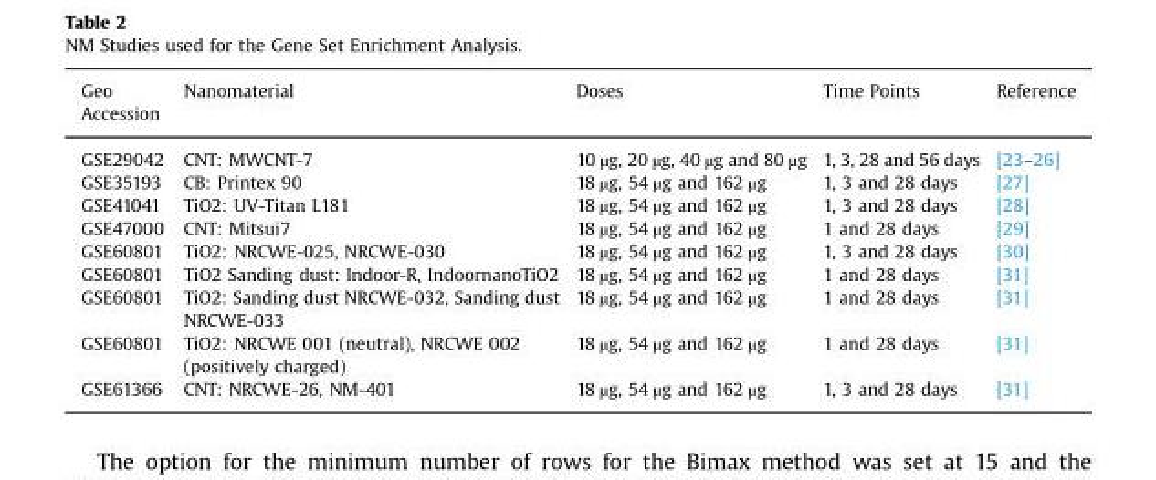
<table><thead><tr><td>Geo Accession</td><td>Nanomaterial</td><td>Doses</td><td>Time Points</td><td>Reference</td></tr></thead><tbody><tr><td>GSE29042</td><td>CNT: MWCNT-7</td><td>10 µg, 20 µg, 40 µg and 80 µg</td><td>1, 3, 28 and 56 days</td><td>[23–26]</td></tr><tr><td>GSE35193</td><td>CB: Printex 90</td><td>18 µg, 54 µg and 162 µg</td><td>1, 3 and 28 days</td><td>[27]</td></tr><tr><td>GSE41041</td><td>TiO2: UV-Titan L181</td><td>18 µg, 54 µg and 162 µg</td><td>1, 3 and 28 days</td><td>[28]</td></tr><tr><td>GSE47000</td><td>CNT: Mitsui7</td><td>18 µg, 54 µg and 162 µg</td><td>1 and 28 days</td><td>[29]</td></tr><tr><td>GSE60801</td><td>TiO2: NRCWE-025, NRCWE-030</td><td>18 µg, 54 µg and 162 µg</td><td>1, 3 and 28 days</td><td>[30]</td></tr><tr><td>GSE60801</td><td>TiO2 Sanding dust: Indoor-R, IndoornanoTiO2</td><td>18 µg, 54 µg and 162 µg</td><td>1 and 28 days</td><td>[31]</td></tr><tr><td>GSE60801</td><td>TiO2: Sanding dust NRCWE-032, Sanding dust NRCWE-033</td><td>18 µg, 54 µg and 162 µg</td><td>1 and 28 days</td><td>[31]</td></tr><tr><td>GSE60801</td><td>TiO2: NRCWE 001 (neutral), NRCWE 002 (positively charged)</td><td>18 µg, 54 µg and 162 µg</td><td>1 and 28 days</td><td>[31]</td></tr><tr><td>GSE61366</td><td>CNT: NRCWE-26, NM-401</td><td>18 µg, 54 µg and 162 µg</td><td>1, 3 and 28 days</td><td>[31]</td></tr></tbody></table>